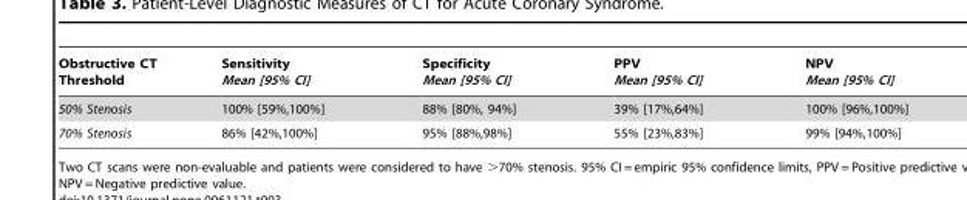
<table><thead><tr><td>Obstructive CT Threshold</td><td>Sensitivity Mean [95% CI]</td><td>Specificity Mean [95% CI]</td><td>PPV Mean [95% CI]</td><td>NPV Mean [95% CI]</td></tr></thead><tbody><tr><td>50% Stenosis</td><td>100% [59%,100%]</td><td>88% [80%, 94%]</td><td>39% [17%,64%]</td><td>100% [96%,100%]</td></tr><tr><td>70% Stenosis</td><td>86% [42%,100%]</td><td>95% [88%,98%]</td><td>55% [23%,83%]</td><td>99% [94%,100%]</td></tr></tbody></table>